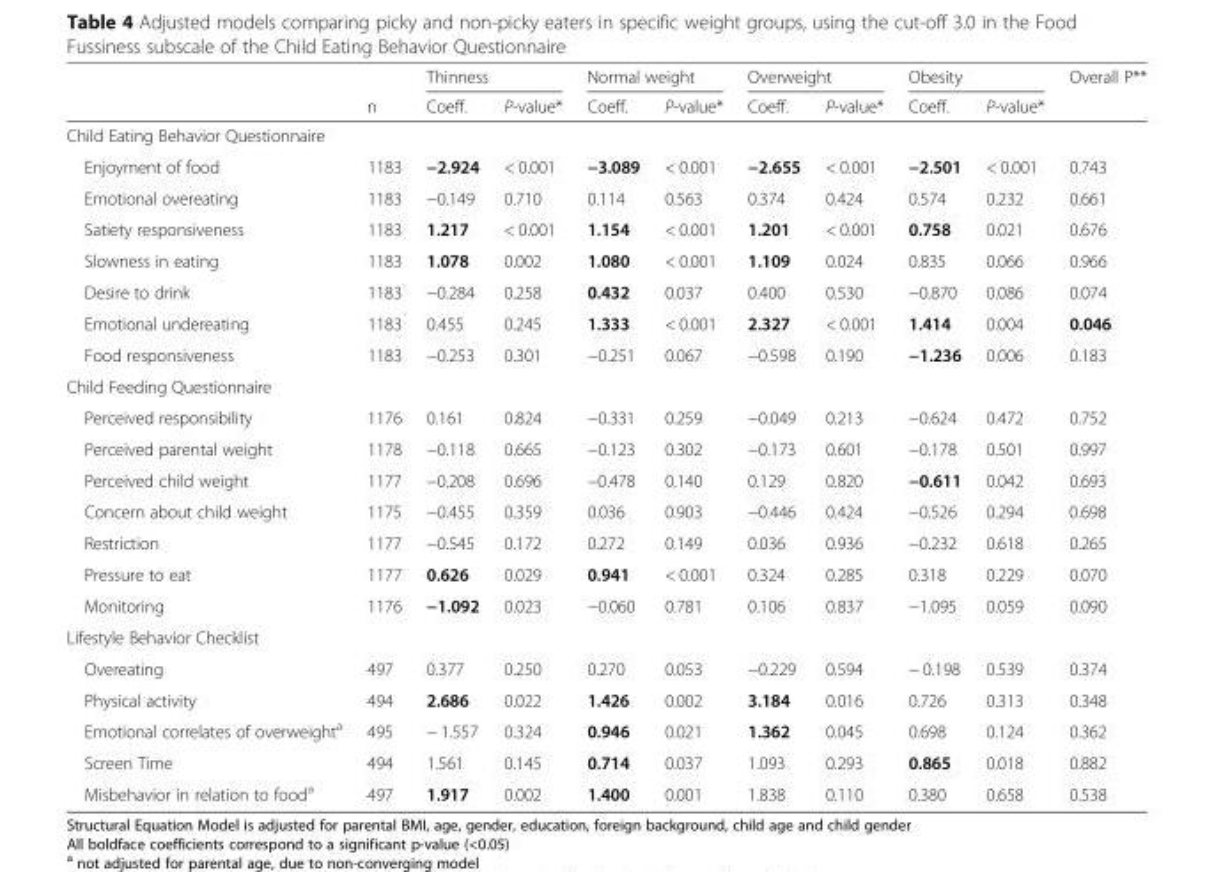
<table><thead><tr><td rowspan="2"></td><td rowspan="2">n</td><td colspan="2">Thinness</td><td colspan="2">Normal weight</td><td colspan="2">Overweight</td><td colspan="2">Obesity</td><td rowspan="2">Overall P**</td></tr><tr><td>Coeff.</td><td>P-value*</td><td>Coeff.</td><td>P-value*</td><td>Coeff.</td><td>P-value*</td><td>Coeff.</td><td>P-value*</td></tr></thead><tbody><tr><td colspan="11">Child Eating Behavior Questionnaire</td></tr><tr><td>Enjoyment of food</td><td>1183</td><td>−2.924</td><td>&lt; 0.001</td><td>−3.089</td><td>&lt; 0.001</td><td>−2.655</td><td>&lt; 0.001</td><td>−2.501</td><td>&lt; 0.001</td><td>0.743</td></tr><tr><td>Emotional overeating</td><td>1183</td><td>−0.149</td><td>0.710</td><td>0.114</td><td>0.563</td><td>0.374</td><td>0.424</td><td>0.574</td><td>0.232</td><td>0.661</td></tr><tr><td>Satiety responsiveness</td><td>1183</td><td>1.217</td><td>&lt; 0.001</td><td>1.154</td><td>&lt; 0.001</td><td>1.201</td><td>&lt; 0.001</td><td>0.758</td><td>0.021</td><td>0.676</td></tr><tr><td>Slowness in eating</td><td>1183</td><td>1.078</td><td>0.002</td><td>1.080</td><td>&lt; 0.001</td><td>1.109</td><td>0.024</td><td>0.835</td><td>0.066</td><td>0.966</td></tr><tr><td>Desire to drink</td><td>1183</td><td>−0.284</td><td>0.258</td><td>0.432</td><td>0.037</td><td>0.400</td><td>0.530</td><td>−0.870</td><td>0.086</td><td>0.074</td></tr><tr><td>Emotional undereating</td><td>1183</td><td>0.455</td><td>0.245</td><td>1.333</td><td>&lt; 0.001</td><td>2.327</td><td>&lt; 0.001</td><td>1.414</td><td>0.004</td><td>0.046</td></tr><tr><td>Food responsiveness</td><td>1183</td><td>−0.253</td><td>0.301</td><td>−0.251</td><td>0.067</td><td>−0.598</td><td>0.190</td><td>−1.236</td><td>0.006</td><td>0.183</td></tr><tr><td colspan="11">Child Feeding Questionnaire</td></tr><tr><td>Perceived responsibility</td><td>1176</td><td>0.161</td><td>0.824</td><td>−0.331</td><td>0.259</td><td>−0.049</td><td>0.213</td><td>−0.624</td><td>0.472</td><td>0.752</td></tr><tr><td>Perceived parental weight</td><td>1178</td><td>−0.118</td><td>0.665</td><td>−0.123</td><td>0.302</td><td>−0.173</td><td>0.601</td><td>−0.178</td><td>0.501</td><td>0.997</td></tr><tr><td>Perceived child weight</td><td>1177</td><td>−0.208</td><td>0.696</td><td>−0.478</td><td>0.140</td><td>0.129</td><td>0.820</td><td>−0.611</td><td>0.042</td><td>0.693</td></tr><tr><td>Concern about child weight</td><td>1175</td><td>−0.455</td><td>0.359</td><td>0.036</td><td>0.903</td><td>−0.446</td><td>0.424</td><td>−0.526</td><td>0.294</td><td>0.698</td></tr><tr><td>Restriction</td><td>1177</td><td>−0.545</td><td>0.172</td><td>0.272</td><td>0.149</td><td>0.036</td><td>0.936</td><td>−0.232</td><td>0.618</td><td>0.265</td></tr><tr><td>Pressure to eat</td><td>1177</td><td>0.626</td><td>0.029</td><td>0.941</td><td>&lt; 0.001</td><td>0.324</td><td>0.285</td><td>0.318</td><td>0.229</td><td>0.070</td></tr><tr><td>Monitoring</td><td>1176</td><td>−1.092</td><td>0.023</td><td>−0.060</td><td>0.781</td><td>0.106</td><td>0.837</td><td>−1.095</td><td>0.059</td><td>0.090</td></tr><tr><td colspan="11">Lifestyle Behavior Checklist</td></tr><tr><td>Overeating</td><td>497</td><td>0.377</td><td>0.250</td><td>0.270</td><td>0.053</td><td>−0.229</td><td>0.594</td><td>− 0.198</td><td>0.539</td><td>0.374</td></tr><tr><td>Physical activity</td><td>494</td><td>2.686</td><td>0.022</td><td>1.426</td><td>0.002</td><td>3.184</td><td>0.016</td><td>0.726</td><td>0.313</td><td>0.348</td></tr><tr><td>Emotional correlates of overweight<sup>a</sup></td><td>495</td><td>− 1.557</td><td>0.324</td><td>0.946</td><td>0.021</td><td>1.362</td><td>0.045</td><td>0.698</td><td>0.124</td><td>0.362</td></tr><tr><td>Screen Time</td><td>494</td><td>1.561</td><td>0.145</td><td>0.714</td><td>0.037</td><td>1.093</td><td>0.293</td><td>0.865</td><td>0.018</td><td>0.882</td></tr><tr><td>Misbehavior in relation to food<sup>a</sup></td><td>497</td><td>1.917</td><td>0.002</td><td>1.400</td><td>0.001</td><td>1.838</td><td>0.110</td><td>0.380</td><td>0.658</td><td>0.538</td></tr></tbody></table>